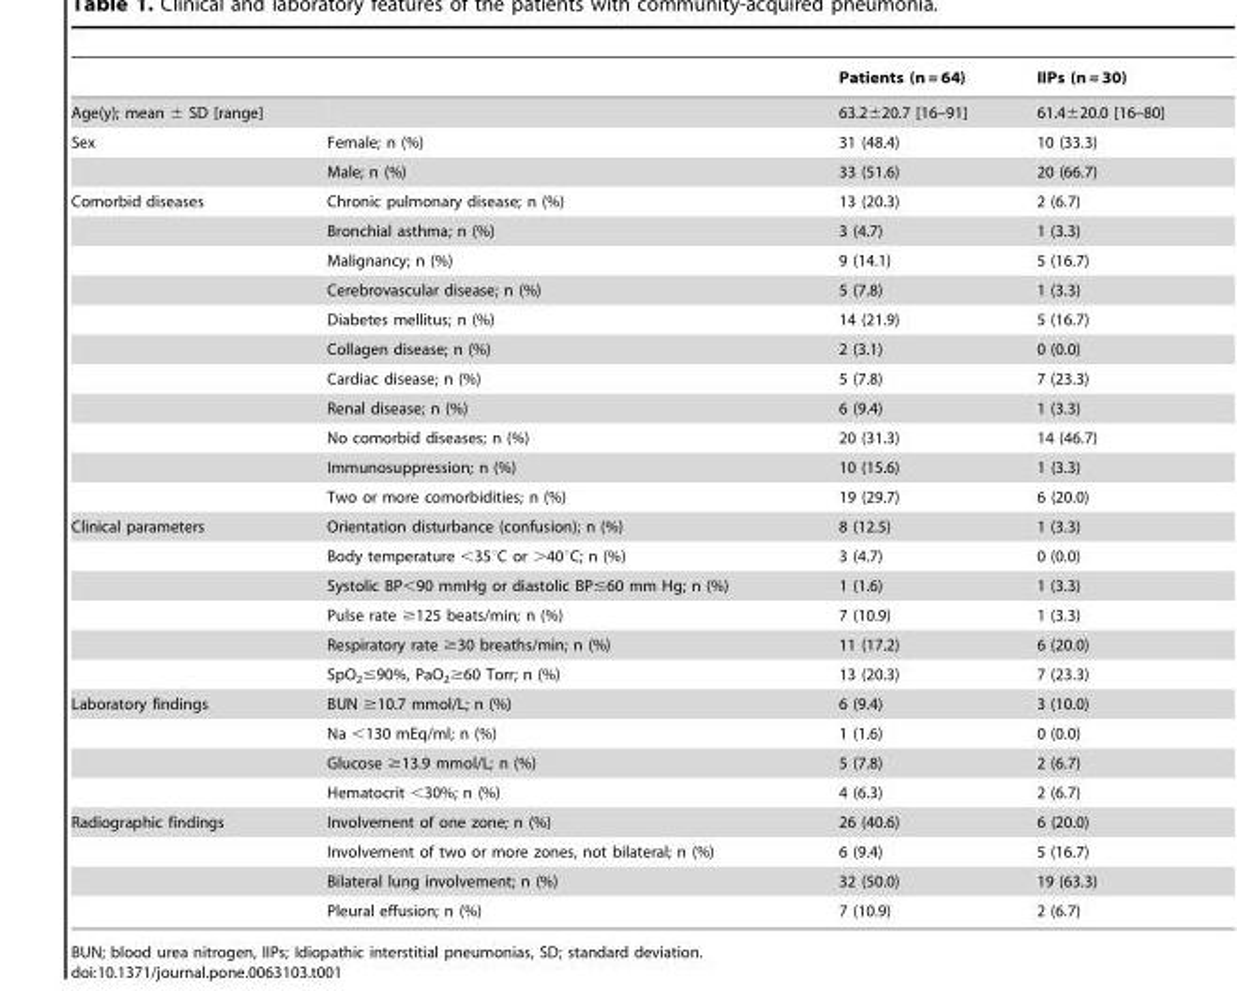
<table><thead><tr><td></td><td></td><td>Patients (n = 64)</td><td>IIPs (n = 30)</td></tr></thead><tbody><tr><td>Age(y); mean ± SD [range]</td><td></td><td>63.2±20.7 [16–91]</td><td>61.4±20.0 [16–80]</td></tr><tr><td rowspan="2">Sex</td><td>Female; n (%)</td><td>31 (48.4)</td><td>10 (33.3)</td></tr><tr><td>Male; n (%)</td><td>33 (51.6)</td><td>20 (66.7)</td></tr><tr><td rowspan="11">Comorbid diseases</td><td>Chronic pulmonary disease; n (%)</td><td>13 (20.3)</td><td>2 (6.7)</td></tr><tr><td>Bronchial asthma; n (%)</td><td>3 (4.7)</td><td>1 (3.3)</td></tr><tr><td>Malignancy; n (%)</td><td>9 (14.1)</td><td>5 (16.7)</td></tr><tr><td>Cerebrovascular disease; n (%)</td><td>5 (7.8)</td><td>1 (3.3)</td></tr><tr><td>Diabetes mellitus; n (%)</td><td>14 (21.9)</td><td>5 (16.7)</td></tr><tr><td>Collagen disease; n (%)</td><td>2 (3.1)</td><td>0 (0.0)</td></tr><tr><td>Cardiac disease; n (%)</td><td>5 (7.8)</td><td>7 (23.3)</td></tr><tr><td>Renal disease; n (%)</td><td>6 (9.4)</td><td>1 (3.3)</td></tr><tr><td>No comorbid diseases; n (%)</td><td>20 (31.3)</td><td>14 (46.7)</td></tr><tr><td>Immunosuppression; n (%)</td><td>10 (15.6)</td><td>1 (3.3)</td></tr><tr><td>Two or more comorbidities; n (%)</td><td>19 (29.7)</td><td>6 (20.0)</td></tr><tr><td rowspan="6">Clinical parameters</td><td>Orientation disturbance (confusion); n (%)</td><td>8 (12.5)</td><td>1 (3.3)</td></tr><tr><td>Body temperature &lt;35°C or &gt;40°C; n (%)</td><td>3 (4.7)</td><td>0 (0.0)</td></tr><tr><td>Systolic BP&lt;90 mmHg or diastolic BP≤60 mm Hg; n (%)</td><td>1 (1.6)</td><td>1 (3.3)</td></tr><tr><td>Pulse rate ≥125 beats/min; n (%)</td><td>7 (10.9)</td><td>1 (3.3)</td></tr><tr><td>Respiratory rate ≥30 breaths/min; n (%)</td><td>11 (17.2)</td><td>6 (20.0)</td></tr><tr><td>SpO<sub>2</sub>≤90%, PaO<sub>2</sub>≥60 Torr; n (%)</td><td>13 (20.3)</td><td>7 (23.3)</td></tr><tr><td rowspan="4">Laboratory findings</td><td>BUN ≥10.7 mmol/L; n (%)</td><td>6 (9.4)</td><td>3 (10.0)</td></tr><tr><td>Na &lt;130 mEq/ml; n (%)</td><td>1 (1.6)</td><td>0 (0.0)</td></tr><tr><td>Glucose ≥13.9 mmol/L; n (%)</td><td>5 (7.8)</td><td>2 (6.7)</td></tr><tr><td>Hematocrit &lt;30%; n (%)</td><td>4 (6.3)</td><td>2 (6.7)</td></tr><tr><td rowspan="4">Radiographic findings</td><td>Involvement of one zone; n (%)</td><td>26 (40.6)</td><td>6 (20.0)</td></tr><tr><td>Involvement of two or more zones, not bilateral; n (%)</td><td>6 (9.4)</td><td>5 (16.7)</td></tr><tr><td>Bilateral lung involvement; n (%)</td><td>32 (50.0)</td><td>19 (63.3)</td></tr><tr><td>Pleural effusion; n (%)</td><td>7 (10.9)</td><td>2 (6.7)</td></tr></tbody></table>